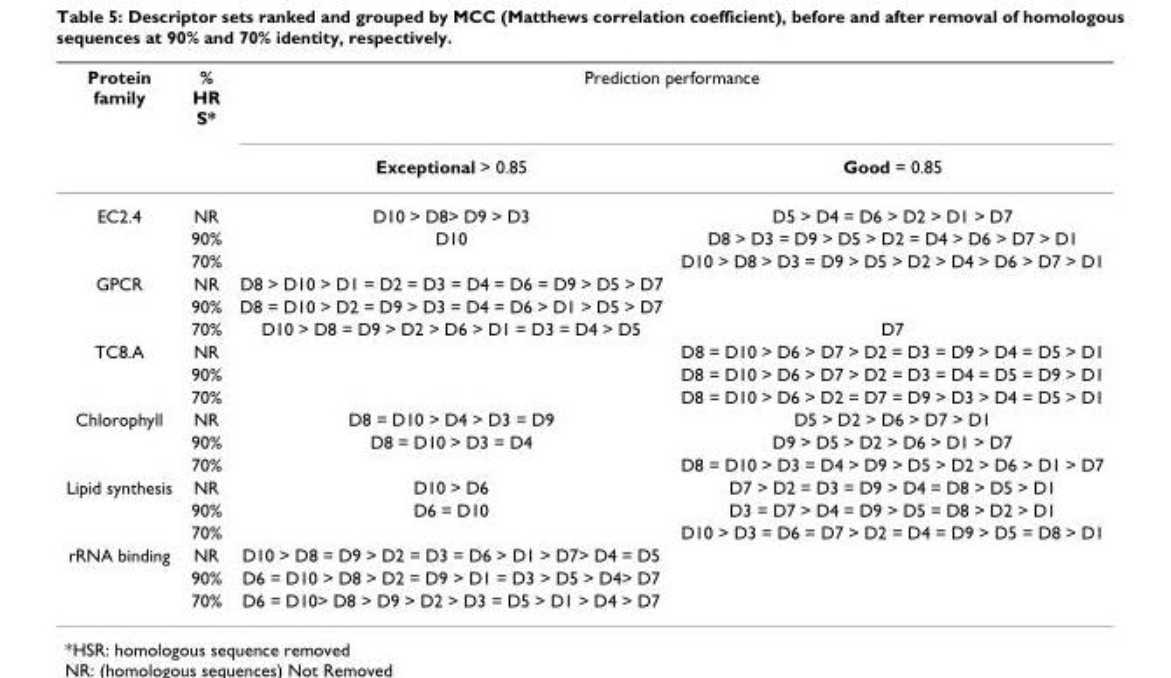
<table><thead><tr><td rowspan="2">Protein family</td><td rowspan="2">% HR S*</td><td colspan="2">Prediction performance</td></tr><tr><td>Exceptional &gt; 0.85</td><td>Good = 0.85</td></tr></thead><tbody><tr><td rowspan="3">EC2.4</td><td>NR</td><td>D10 &gt; D8&gt; D9 &gt; D3</td><td>D5 &gt; D4 = D6 &gt; D2 &gt; D1 &gt; D7</td></tr><tr><td>90%</td><td>D10</td><td>D8 &gt; D3 = D9 &gt; D5 &gt; D2 = D4 &gt; D6 &gt; D7 &gt; D1</td></tr><tr><td>70%</td><td></td><td>D10 &gt; D8 &gt; D3 = D9 &gt; D5 &gt; D2 &gt; D4 &gt; D6 &gt; D7 &gt; D1</td></tr><tr><td rowspan="3">GPCR</td><td>NR</td><td>D8 &gt; D10 &gt; D1 = D2 = D3 = D4 = D6 = D9 &gt; D5 &gt; D7</td><td></td></tr><tr><td>90%</td><td>D8 = D10 &gt; D2 = D9 &gt; D3 = D4 = D6 &gt; D1 &gt; D5 &gt; D7</td><td></td></tr><tr><td>70%</td><td>D10 &gt; D8 = D9 &gt; D2 &gt; D6 &gt; D1 = D3 = D4 &gt; D5</td><td>D7</td></tr><tr><td rowspan="3">TC8.A</td><td>NR</td><td></td><td>D8 = D10 &gt; D6 &gt; D7 &gt; D2 = D3 = D9 &gt; D4 = D5 &gt; D1</td></tr><tr><td>90%</td><td></td><td>D8 = D10 &gt; D6 &gt; D7 &gt; D2 = D3 = D4 = D5 = D9 &gt; D1</td></tr><tr><td>70%</td><td></td><td>D8 = D10 &gt; D6 &gt; D2 = D7 = D9 &gt; D3 &gt; D4 = D5 &gt; D1</td></tr><tr><td rowspan="3">Chlorophyll</td><td>NR</td><td>D8 = D10 &gt; D4 &gt; D3 = D9</td><td>D5 &gt; D2 &gt; D6 &gt; D7 &gt; D1</td></tr><tr><td>90%</td><td>D8 = D10 &gt; D3 = D4</td><td>D9 &gt; D5 &gt; D2 &gt; D6 &gt; D1 &gt; D7</td></tr><tr><td>70%</td><td></td><td>D8 = D10 &gt; D3 = D4 &gt; D9 &gt; D5 &gt; D2 &gt; D6 &gt; D1 &gt; D7</td></tr><tr><td rowspan="3">Lipid synthesis</td><td>NR</td><td>D10 &gt; D6</td><td>D7 &gt; D2 = D3 = D9 &gt; D4 = D8 &gt; D5 &gt; D1</td></tr><tr><td>90%</td><td>D6 = D10</td><td>D3 = D7 &gt; D4 = D9 &gt; D5 = D8 &gt; D2 &gt; D1</td></tr><tr><td>70%</td><td></td><td>D10 &gt; D3 = D6 = D7 &gt; D2 = D4 = D9 &gt; D5 = D8 &gt; D1</td></tr><tr><td rowspan="3">rRNA binding</td><td>NR</td><td>D10 &gt; D8 = D9 &gt; D2 = D3 = D6 &gt; D1 &gt; D7&gt; D4 = D5</td><td></td></tr><tr><td>90%</td><td>D6 = D10 &gt; D8 &gt; D2 = D9 &gt; D1 = D3 &gt; D5 &gt; D4&gt; D7</td><td></td></tr><tr><td>70%</td><td>D6 = D10&gt; D8 &gt; D9 &gt; D2 &gt; D3 = D5 &gt; D1 &gt; D4 &gt; D7</td><td></td></tr></tbody></table>